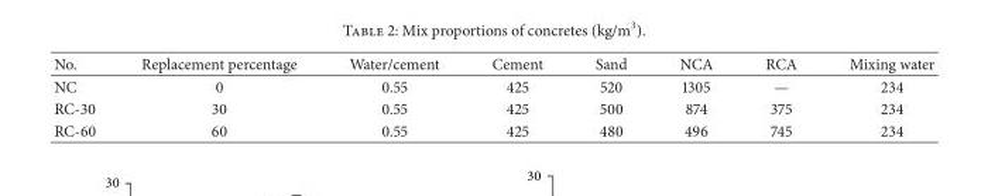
<table><thead><tr><td>No.</td><td>Replacement percentage</td><td>Water/cement</td><td>Cement</td><td>Sand</td><td>NCA</td><td>RCA</td><td>Mixing water</td></tr></thead><tbody><tr><td>NC</td><td>0</td><td>0.55</td><td>425</td><td>520</td><td>1305</td><td>—</td><td>234</td></tr><tr><td>RC-30</td><td>30</td><td>0.55</td><td>425</td><td>500</td><td>874</td><td>375</td><td>234</td></tr><tr><td>RC-60</td><td>60</td><td>0.55</td><td>425</td><td>480</td><td>496</td><td>745</td><td>234</td></tr></tbody></table>